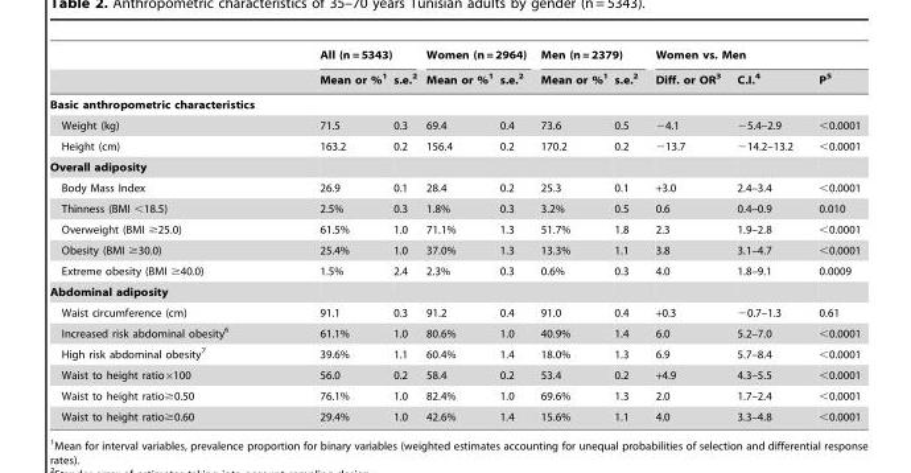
<table><thead><tr><td rowspan="2"></td><td colspan="2">All (n = 5343)</td><td colspan="2">Women (n = 2964)</td><td colspan="2">Men (n = 2379)</td><td colspan="3">Women vs. Men</td></tr><tr><td>Mean or %<sup>1</sup></td><td>s.e.<sup>2</sup></td><td>Mean or %<sup>1</sup></td><td>s.e.<sup>2</sup></td><td>Mean or %<sup>1</sup></td><td>s.e.<sup>2</sup></td><td>Diff. or OR<sup>3</sup></td><td>C.I.<sup>4</sup></td><td>P<sup>5</sup></td></tr></thead><tbody><tr><td colspan="10">Basic anthropometric characteristics</td></tr><tr><td>Weight (kg)</td><td>71.5</td><td>0.3</td><td>69.4</td><td>0.4</td><td>73.6</td><td>0.5</td><td>−4.1</td><td>−5.4–2.9</td><td>&lt;0.0001</td></tr><tr><td>Height (cm)</td><td>163.2</td><td>0.2</td><td>156.4</td><td>0.2</td><td>170.2</td><td>0.2</td><td>−13.7</td><td>−14.2–13.2</td><td>&lt;0.0001</td></tr><tr><td colspan="10">Overall adiposity</td></tr><tr><td>Body Mass Index</td><td>26.9</td><td>0.1</td><td>28.4</td><td>0.2</td><td>25.3</td><td>0.1</td><td>+3.0</td><td>2.4–3.4</td><td>&lt;0.0001</td></tr><tr><td>Thinness (BMI &lt;18.5)</td><td>2.5%</td><td>0.3</td><td>1.8%</td><td>0.3</td><td>3.2%</td><td>0.5</td><td>0.6</td><td>0.4–0.9</td><td>0.010</td></tr><tr><td>Overweight (BMI ≥25.0)</td><td>61.5%</td><td>1.0</td><td>71.1%</td><td>1.3</td><td>51.7%</td><td>1.8</td><td>2.3</td><td>1.9–2.8</td><td>&lt;0.0001</td></tr><tr><td>Obesity (BMI ≥30.0)</td><td>25.4%</td><td>1.0</td><td>37.0%</td><td>1.3</td><td>13.3%</td><td>1.1</td><td>3.8</td><td>3.1–4.7</td><td>&lt;0.0001</td></tr><tr><td>Extreme obesity (BMI ≥40.0)</td><td>1.5%</td><td>2.4</td><td>2.3%</td><td>0.3</td><td>0.6%</td><td>0.3</td><td>4.0</td><td>1.8–9.1</td><td>0.0009</td></tr><tr><td colspan="10">Abdominal adiposity</td></tr><tr><td>Waist circumference (cm)</td><td>91.1</td><td>0.3</td><td>91.2</td><td>0.4</td><td>91.0</td><td>0.4</td><td>+0.3</td><td>−0.7–1.3</td><td>0.61</td></tr><tr><td>Increased risk abdominal obesity<sup>6</sup></td><td>61.1%</td><td>1.0</td><td>80.6%</td><td>1.0</td><td>40.9%</td><td>1.4</td><td>6.0</td><td>5.2–7.0</td><td>&lt;0.0001</td></tr><tr><td>High risk abdominal obesity<sup>7</sup></td><td>39.6%</td><td>1.1</td><td>60.4%</td><td>1.4</td><td>18.0%</td><td>1.3</td><td>6.9</td><td>5.7–8.4</td><td>&lt;0.0001</td></tr><tr><td>Waist to height ratio×100</td><td>56.0</td><td>0.2</td><td>58.4</td><td>0.2</td><td>53.4</td><td>0.2</td><td>+4.9</td><td>4.3–5.5</td><td>&lt;0.0001</td></tr><tr><td>Waist to height ratio≥0.50</td><td>76.1%</td><td>1.0</td><td>82.4%</td><td>1.0</td><td>69.6%</td><td>1.3</td><td>2.0</td><td>1.7–2.4</td><td>&lt;0.0001</td></tr><tr><td>Waist to height ratio≥0.60</td><td>29.4%</td><td>1.0</td><td>42.6%</td><td>1.4</td><td>15.6%</td><td>1.1</td><td>4.0</td><td>3.3–4.8</td><td>&lt;0.0001</td></tr></tbody></table>